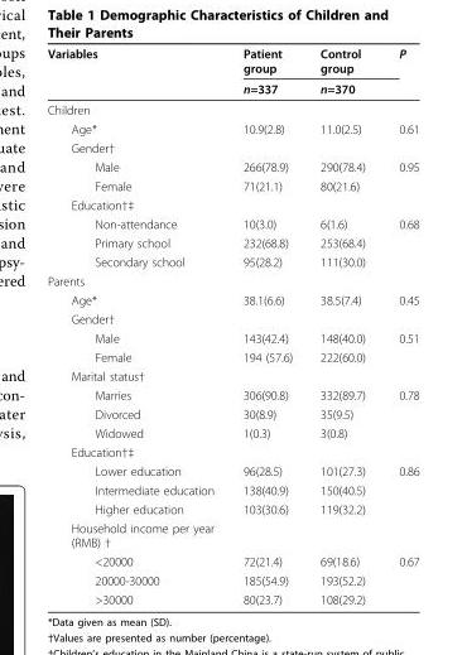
<table><thead><tr><td rowspan="2">Variables</td><td rowspan="2">Patient group n=337</td><td rowspan="2">Control group n=370</td><td rowspan="2">P</td></tr><tr></tr></thead><tbody><tr><td colspan="4">Children</td></tr><tr><td>Age*</td><td>10.9(2.8)</td><td>11.0(2.5)</td><td>0.61</td></tr><tr><td colspan="4">Gender†</td></tr><tr><td>Male</td><td>266(78.9)</td><td>290(78.4)</td><td>0.95</td></tr><tr><td>Female</td><td>71(21.1)</td><td>80(21.6)</td><td></td></tr><tr><td colspan="4">Education†‡</td></tr><tr><td>Non-attendance</td><td>10(3.0)</td><td>6(1.6)</td><td>0.68</td></tr><tr><td>Primary school</td><td>232(68.8)</td><td>253(68.4)</td><td></td></tr><tr><td>Secondary school</td><td>95(28.2)</td><td>111(30.0)</td><td></td></tr><tr><td colspan="4">Parents</td></tr><tr><td>Age*</td><td>38.1(6.6)</td><td>38.5(7.4)</td><td>0.45</td></tr><tr><td colspan="4">Gender†</td></tr><tr><td>Male</td><td>143(42.4)</td><td>148(40.0)</td><td>0.51</td></tr><tr><td>Female</td><td>194 (57.6)</td><td>222(60.0)</td><td></td></tr><tr><td colspan="4">Marital status†</td></tr><tr><td>Marries</td><td>306(90.8)</td><td>332(89.7)</td><td>0.78</td></tr><tr><td>Divorced</td><td>30(8.9)</td><td>35(9.5)</td><td></td></tr><tr><td>Widowed</td><td>1(0.3)</td><td>3(0.8)</td><td></td></tr><tr><td colspan="4">Education†‡</td></tr><tr><td>Lower education</td><td>96(28.5)</td><td>101(27.3)</td><td>0.86</td></tr><tr><td>Intermediate education</td><td>138(40.9)</td><td>150(40.5)</td><td></td></tr><tr><td>Higher education</td><td>103(30.6)</td><td>119(32.2)</td><td></td></tr><tr><td colspan="4">Household income per year (RMB) †</td></tr><tr><td>&lt;20000</td><td>72(21.4)</td><td>69(18.6)</td><td>0.67</td></tr><tr><td>20000-30000</td><td>185(54.9)</td><td>193(52.2)</td><td></td></tr><tr><td>&gt;30000</td><td>80(23.7)</td><td>108(29.2)</td><td></td></tr></tbody></table>